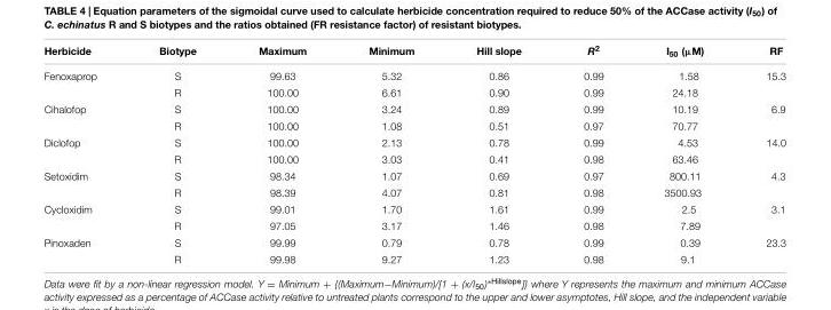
<table><thead><tr><td>Herbicide</td><td>Biotype</td><td>Maximum</td><td>Minimum</td><td>Hill slope</td><td>R<sup>2</sup></td><td>I<sub>50</sub> (µM)</td><td>RF</td></tr></thead><tbody><tr><td rowspan="2">Fenoxaprop</td><td>S</td><td>99.63</td><td>5.32</td><td>0.86</td><td>0.99</td><td>1.58</td><td>15.3</td></tr><tr><td>R</td><td>100.00</td><td>6.61</td><td>0.90</td><td>0.99</td><td>24.18</td><td></td></tr><tr><td rowspan="2">Cihalofop</td><td>S</td><td>100.00</td><td>3.24</td><td>0.89</td><td>0.99</td><td>10.19</td><td>6.9</td></tr><tr><td>R</td><td>100.00</td><td>1.08</td><td>0.51</td><td>0.97</td><td>70.77</td><td></td></tr><tr><td rowspan="2">Diclofop</td><td>S</td><td>100.00</td><td>2.13</td><td>0.78</td><td>0.99</td><td>4.53</td><td>14.0</td></tr><tr><td>R</td><td>100.00</td><td>3.03</td><td>0.41</td><td>0.98</td><td>63.46</td><td></td></tr><tr><td rowspan="2">Setoxidim</td><td>S</td><td>98.34</td><td>1.07</td><td>0.69</td><td>0.97</td><td>800.11</td><td>4.3</td></tr><tr><td>R</td><td>98.39</td><td>4.07</td><td>0.81</td><td>0.98</td><td>3500.93</td><td></td></tr><tr><td rowspan="2">Cycloxidim</td><td>S</td><td>99.01</td><td>1.70</td><td>1.61</td><td>0.99</td><td>2.5</td><td>3.1</td></tr><tr><td>R</td><td>97.05</td><td>3.17</td><td>1.46</td><td>0.98</td><td>7.89</td><td></td></tr><tr><td rowspan="2">Pinoxaden</td><td>S</td><td>99.99</td><td>0.79</td><td>0.78</td><td>0.99</td><td>0.39</td><td>23.3</td></tr><tr><td>R</td><td>99.98</td><td>9.27</td><td>1.23</td><td>0.98</td><td>9.1</td><td></td></tr></tbody></table>